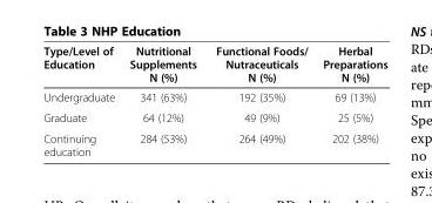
<table><thead><tr><td>Type/Level of Education</td><td>Nutritional Supplements N (%)</td><td>Functional Foods/ Nutraceuticals N (%)</td><td>Herbal Preparations N (%)</td></tr></thead><tbody><tr><td>Undergraduate</td><td>341 (63%)</td><td>192 (35%)</td><td>69 (13%)</td></tr><tr><td>Graduate</td><td>64 (12%)</td><td>49 (9%)</td><td>25 (5%)</td></tr><tr><td>Continuing education</td><td>284 (53%)</td><td>264 (49%)</td><td>202 (38%)</td></tr></tbody></table>